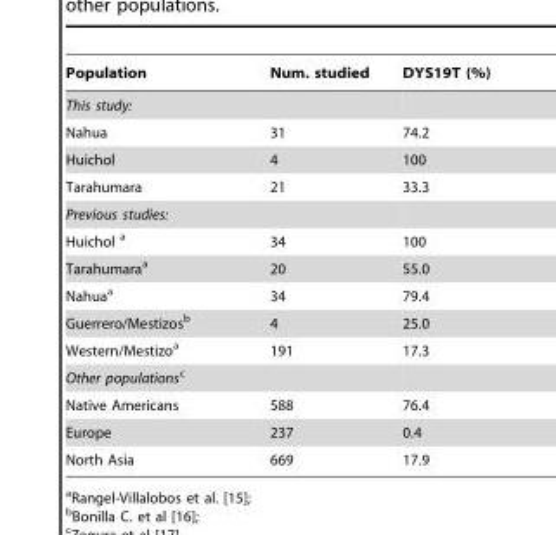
<table><thead><tr><td>Population</td><td>Num. studied</td><td>DYS19T (%)</td></tr></thead><tbody><tr><td colspan="3">This study:</td></tr><tr><td>Nahua</td><td>31</td><td>74.2</td></tr><tr><td>Huichol</td><td>4</td><td>100</td></tr><tr><td>Tarahumara</td><td>21</td><td>33.3</td></tr><tr><td colspan="3">Previous studies:</td></tr><tr><td>Huichol a</td><td>34</td><td>100</td></tr><tr><td>Tarahumara<sup>a</sup></td><td>20</td><td>55.0</td></tr><tr><td>Nahua<sup>a</sup></td><td>34</td><td>79.4</td></tr><tr><td>Guerrero/Mestizos<sup>b</sup></td><td>4</td><td>25.0</td></tr><tr><td>Western/Mestizo<sup>a</sup></td><td>191</td><td>17.3</td></tr><tr><td colspan="3">Other populationsc</td></tr><tr><td>Native Americans</td><td>588</td><td>76.4</td></tr><tr><td>Europe</td><td>237</td><td>0.4</td></tr><tr><td>North Asia</td><td>669</td><td>17.9</td></tr></tbody></table>